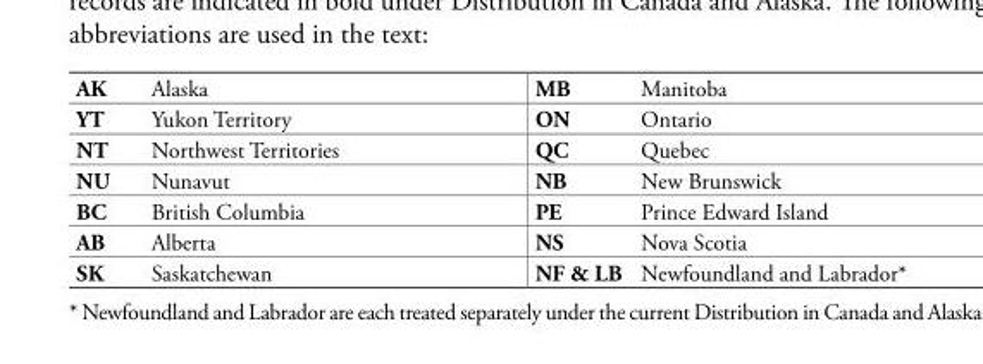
<table><tbody><tr><td>AK</td><td>Alaska</td><td>MB</td><td>Manitoba</td></tr><tr><td>YT</td><td>Yukon Territory</td><td>ON</td><td>Ontario</td></tr><tr><td>NT</td><td>Northwest Territories</td><td>QC</td><td>Quebec</td></tr><tr><td>NU</td><td>Nunavut</td><td>NB</td><td>New Brunswick</td></tr><tr><td>BC</td><td>British Columbia</td><td>PE</td><td>Prince Edward Island</td></tr><tr><td>AB</td><td>Alberta</td><td>NS</td><td>Nova Scotia</td></tr><tr><td>SK</td><td>Saskatchewan</td><td>NF &amp; LB</td><td>Newfoundland and Labrador*</td></tr></tbody></table>